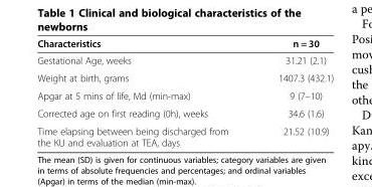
<table><thead><tr><td>Characteristics</td><td>n = 30</td></tr></thead><tbody><tr><td>Gestational Age, weeks</td><td>31.21 (2.1)</td></tr><tr><td>Weight at birth, grams</td><td>1407.3 (432.1)</td></tr><tr><td>Apgar at 5 mins of life, Md (min-max)</td><td>9 (7–10)</td></tr><tr><td>Corrected age on first reading (0h), weeks</td><td>34.6 (1.6)</td></tr><tr><td>Time elapsing between being discharged from the KU and evaluation at TEA, days</td><td>21.52 (10.9)</td></tr></tbody></table>